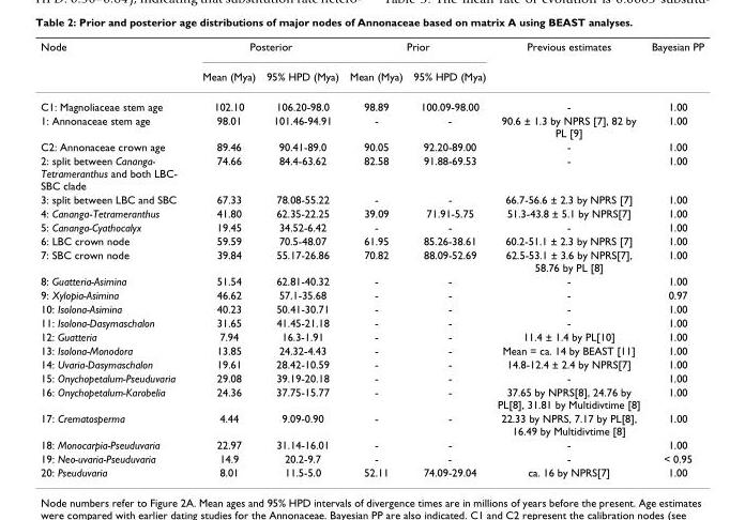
<table><thead><tr><td rowspan="2">Node</td><td colspan="2">Posterior</td><td colspan="2">Prior</td><td rowspan="2">Previous estimates</td><td rowspan="2">Bayesian PP</td></tr><tr><td>Mean (Mya)</td><td>95% HPD (Mya)</td><td>Mean (Mya)</td><td>95% HPD (Mya)</td></tr></thead><tbody><tr><td>C1: Magnoliaceae stem age</td><td>102.10</td><td>106.20-98.0</td><td>98.89</td><td>100.09-98.00</td><td>-</td><td>1.00</td></tr><tr><td>1: Annonaceae stem age</td><td>98.01</td><td>101.46-94.91</td><td>-</td><td>-</td><td>90.6 ± 1.3 by NPRS [7], 82 by PL [9]</td><td>1.00</td></tr><tr><td>C2: Annonaceae crown age</td><td>89.46</td><td>90.41-89.0</td><td>90.05</td><td>92.20-89.00</td><td>-</td><td>1.00</td></tr><tr><td>2: split between Cananga- Tetrameranthus and both LBC- SBC clade</td><td>74.66</td><td>84.4-63.62</td><td>82.58</td><td>91.88-69.53</td><td>-</td><td>1.00</td></tr><tr><td>3: split between LBC and SBC</td><td>67.33</td><td>78.08-55.22</td><td>-</td><td>-</td><td>66.7-56.6 ± 2.3 by NPRS [7]</td><td>1.00</td></tr><tr><td>4: Cananga-Tetrameranthus</td><td>41.80</td><td>62.35-22.25</td><td>39.09</td><td>71.91-5.75</td><td>51.3-43.8 ± 5.1 by NPRS[7]</td><td>1.00</td></tr><tr><td>5: Cananga-Cyathocalyx</td><td>19.45</td><td>34.52-6.42</td><td>-</td><td>-</td><td>-</td><td>1.00</td></tr><tr><td>6: LBC crown node</td><td>59.59</td><td>70.5-48.07</td><td>61.95</td><td>85.26-38.61</td><td>60.2-51.1 ± 2.3 by NPRS [7]</td><td>1.00</td></tr><tr><td>7: SBC crown node</td><td>39.84</td><td>55.17-26.86</td><td>70.82</td><td>88.09-52.69</td><td>62.5-53.1 ± 3.6 by NPRS[7], 58.76 by PL [8]</td><td>1.00</td></tr><tr><td>8: Guatteria-Asimina</td><td>51.54</td><td>62.81-40.32</td><td>-</td><td>-</td><td>-</td><td>1.00</td></tr><tr><td>9: Xylopia-Asimina</td><td>46.62</td><td>57.1-35.68</td><td>-</td><td>-</td><td>-</td><td>0.97</td></tr><tr><td>10: Isolona-Asimina</td><td>40.23</td><td>50.41-30.71</td><td>-</td><td>-</td><td>-</td><td>1.00</td></tr><tr><td>11: Isolona-Dasymaschalon</td><td>31.65</td><td>41.45-21.18</td><td>-</td><td>-</td><td>-</td><td>1.00</td></tr><tr><td>12: Guatteria</td><td>7.94</td><td>16.3-1.91</td><td>-</td><td>-</td><td>11.4 ± 1.4 by PL[10]</td><td>1.00</td></tr><tr><td>13: Isolona-Monodora</td><td>13.85</td><td>24.32-4.43</td><td>-</td><td>-</td><td>Mean = ca. 14 by BEAST [11]</td><td>1.00</td></tr><tr><td>14: Uvaria-Dasymaschalon</td><td>19.61</td><td>28.42-10.59</td><td>-</td><td>-</td><td>14.8-12.4 ± 2.4 by NPRS[7]</td><td>1.00</td></tr><tr><td>15: Onychopetalum-Pseuduvaria</td><td>29.08</td><td>39.19-20.18</td><td>-</td><td>-</td><td>-</td><td>1.00</td></tr><tr><td>16: Onychopetalum-Karobelia</td><td>24.36</td><td>37.75-15.77</td><td>-</td><td>-</td><td>37.65 by NPRS[8], 24.76 by PL[8], 31.81 by Multidivtime [8]</td><td>1.00</td></tr><tr><td>17: Crematosperma</td><td>4.44</td><td>9.09-0.90</td><td>-</td><td>-</td><td>22.33 by NPRS, 7.17 by PL[8], 16.49 by Multidivtime [8]</td><td>1.00</td></tr><tr><td>18: Monocarpia-Pseuduvaria</td><td>22.97</td><td>31.14-16.01</td><td>-</td><td>-</td><td>-</td><td>1.00</td></tr><tr><td>19: Neo-uvaria-Pseuduvaria</td><td>14.9</td><td>20.2-9.7</td><td>-</td><td>-</td><td>-</td><td>&lt; 0.95</td></tr><tr><td>20: Pseuduvaria</td><td>8.01</td><td>11.5-5.0</td><td>52.11</td><td>74.09-29.04</td><td>ca. 16 by NPRS[7]</td><td>1.00</td></tr></tbody></table>